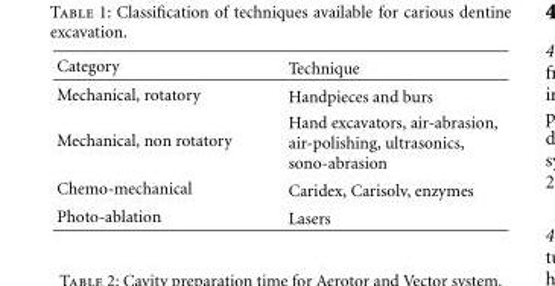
<table><thead><tr><td>Category</td><td>Technique</td></tr></thead><tbody><tr><td>Mechanical, rotatory</td><td>Handpieces and burs</td></tr><tr><td>Mechanical, non rotatory</td><td>Hand excavators, air-abrasion, air-polishing, ultrasonics, sono-abrasion</td></tr><tr><td>Chemo-mechanical</td><td>Caridex, Carisolv, enzymes</td></tr><tr><td>Photo-ablation</td><td>Lasers</td></tr></tbody></table>